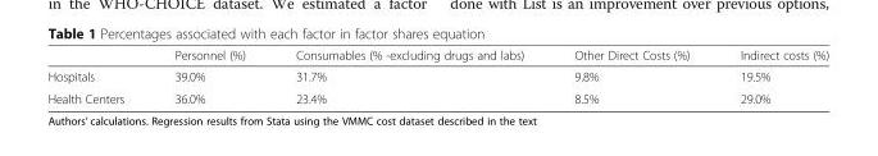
<table><thead><tr><td></td><td>Personnel (%)</td><td>Consumables (% -excluding drugs and labs)</td><td>Other Direct Costs (%)</td><td>Indirect costs (%)</td></tr></thead><tbody><tr><td>Hospitals</td><td>39.0%</td><td>31.7%</td><td>9.8%</td><td>19.5%</td></tr><tr><td>Health Centers</td><td>36.0%</td><td>23.4%</td><td>8.5%</td><td>29.0%</td></tr></tbody></table>